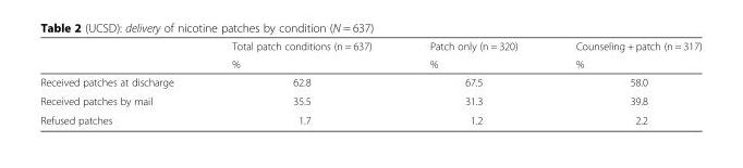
<table><thead><tr><td rowspan="2"></td><td rowspan="2">Total patch conditions (n = 637) %</td><td rowspan="2">Patch only (n = 320) %</td><td rowspan="2">Counseling + patch (n = 317) %</td></tr><tr></tr></thead><tbody><tr><td>Received patches at discharge</td><td>62.8</td><td>67.5</td><td>58.0</td></tr><tr><td>Received patches by mail</td><td>35.5</td><td>31.3</td><td>39.8</td></tr><tr><td>Refused patches</td><td>1.7</td><td>1.2</td><td>2.2</td></tr></tbody></table>